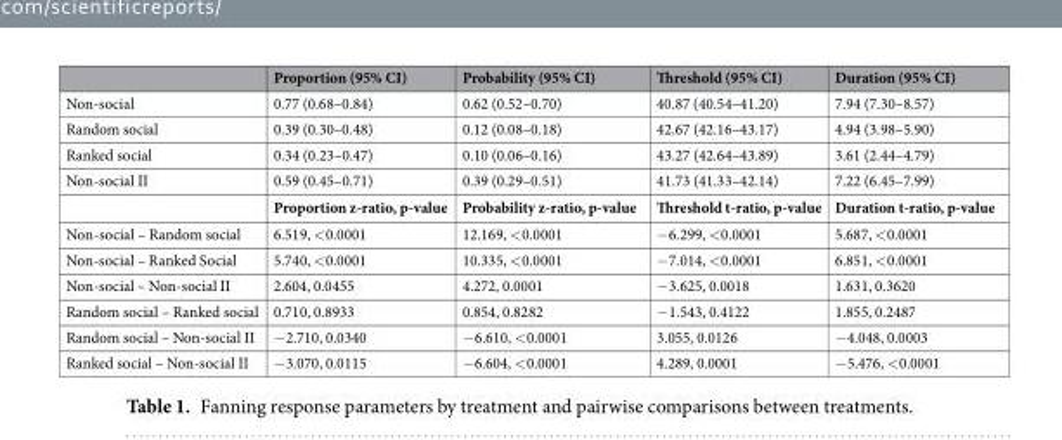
<table><thead><tr><td></td><td>Proportion (95% CI)</td><td>Probability (95% CI)</td><td>Threshold (95% CI)</td><td>Duration (95% CI)</td></tr></thead><tbody><tr><td>Non-social</td><td>0.77 (0.68–0.84)</td><td>0.62 (0.52–0.70)</td><td>40.87 (40.54–41.20)</td><td>7.94 (7.30–8.57)</td></tr><tr><td>Random social</td><td>0.39 (0.30–0.48)</td><td>0.12 (0.08–0.18)</td><td>42.67 (42.16–43.17)</td><td>4.94 (3.98–5.90)</td></tr><tr><td>Ranked social</td><td>0.34 (0.23–0.47)</td><td>0.10 (0.06–0.16)</td><td>43.27 (42.64–43.89)</td><td>3.61 (2.44–4.79)</td></tr><tr><td rowspan="2">Non-social II</td><td>0.59 (0.45–0.71)</td><td>0.39 (0.29–0.51)</td><td>41.73 (41.33–42.14)</td><td>7.22 (6.45–7.99)</td></tr><tr><td>Proportion z-ratio, p-value</td><td>Probability z-ratio, p-value</td><td>Threshold t-ratio, p-value</td><td>Duration t-ratio, p-value</td></tr><tr><td>Non-social – Random social</td><td>6.519, &lt;0.0001</td><td>12.169, &lt;0.0001</td><td>−6.299, &lt;0.0001</td><td>5.687, &lt;0.0001</td></tr><tr><td>Non-social – Ranked Social</td><td>5.740, &lt;0.0001</td><td>10.335, &lt;0.0001</td><td>−7.014, &lt;0.0001</td><td>6.851, &lt;0.0001</td></tr><tr><td>Non-social – Non-social II</td><td>2.604, 0.0455</td><td>4.272, 0.0001</td><td>−3.625, 0.0018</td><td>1.631, 0.3620</td></tr><tr><td>Random social – Ranked social</td><td>0.710, 0.8933</td><td>0.854, 0.8282</td><td>−1.543, 0.4122</td><td>1.855, 0.2487</td></tr><tr><td>Random social – Non-social II</td><td>−2.710, 0.0340</td><td>−6.610, &lt;0.0001</td><td>3.055, 0.0126</td><td>−4.048, 0.0003</td></tr><tr><td>Ranked social – Non-social II</td><td>−3.070, 0.0115</td><td>−6.604, &lt;0.0001</td><td>4.289, 0.0001</td><td>−5.476, &lt;0.0001</td></tr></tbody></table>